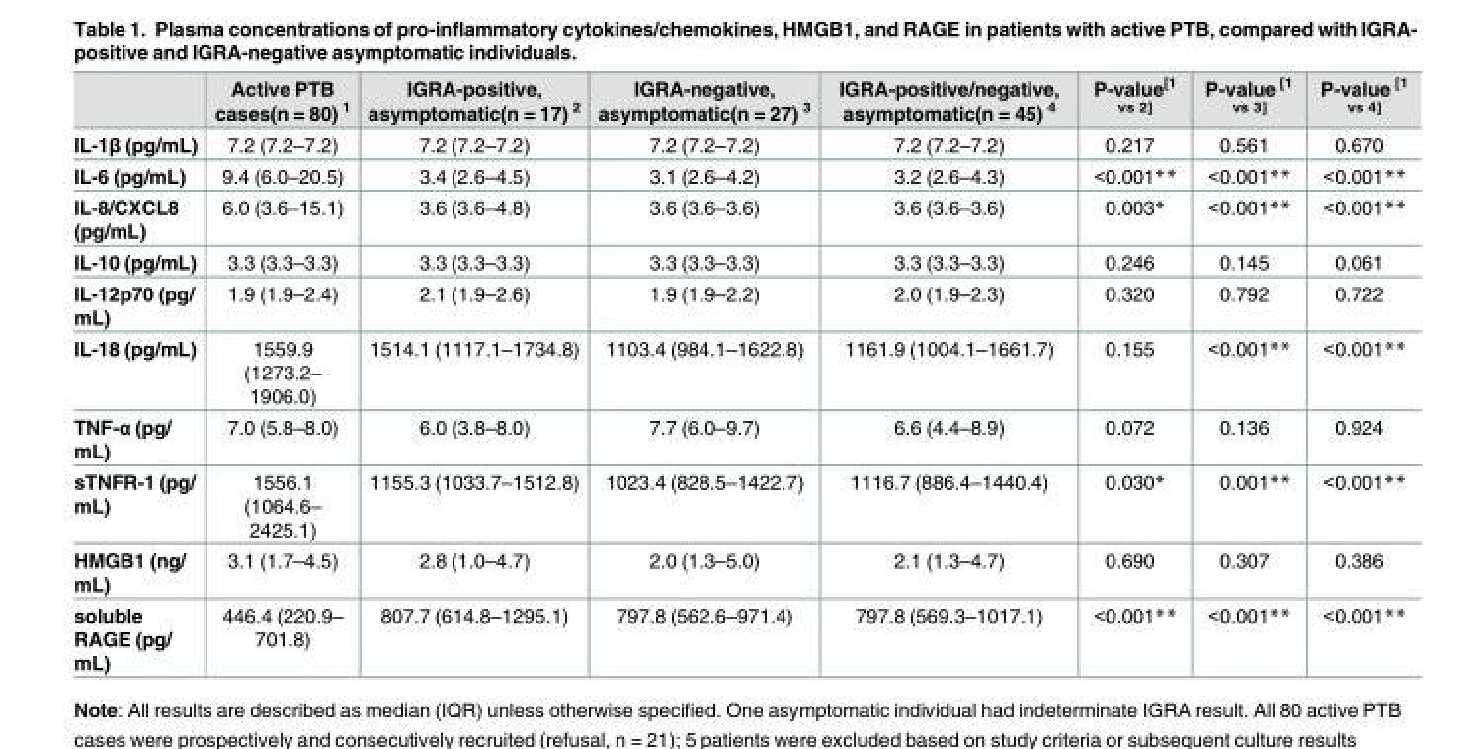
<table><thead><tr><td></td><td>Active PTB cases(n = 80) <sup>1</sup></td><td>IGRA-positive, asymptomatic(n = 17) <sup>2</sup></td><td>IGRA-negative, asymptomatic(n = 27) <sup>3</sup></td><td>IGRA-positive/negative, asymptomatic(n = 45) <sup>4</sup></td><td>P-value<sup>[1 vs 2]</sup></td><td>P-value <sup>[1 vs 3]</sup></td><td>P-value <sup>[1 vs 4]</sup></td></tr></thead><tbody><tr><td>IL-1β (pg/mL)</td><td>7.2 (7.2–7.2)</td><td>7.2 (7.2–7.2)</td><td>7.2 (7.2–7.2)</td><td>7.2 (7.2–7.2)</td><td>0.217</td><td>0.561</td><td>0.670</td></tr><tr><td>IL-6 (pg/mL)</td><td>9.4 (6.0–20.5)</td><td>3.4 (2.6–4.5)</td><td>3.1 (2.6–4.2)</td><td>3.2 (2.6–4.3)</td><td>&lt;0.001**</td><td>&lt;0.001**</td><td>&lt;0.001**</td></tr><tr><td>IL-8/CXCL8 (pg/mL)</td><td>6.0 (3.6–15.1)</td><td>3.6 (3.6–4.8)</td><td>3.6 (3.6–3.6)</td><td>3.6 (3.6–3.6)</td><td>0.003*</td><td>&lt;0.001**</td><td>&lt;0.001**</td></tr><tr><td>IL-10 (pg/mL)</td><td>3.3 (3.3–3.3)</td><td>3.3 (3.3–3.3)</td><td>3.3 (3.3–3.3)</td><td>3.3 (3.3–3.3)</td><td>0.246</td><td>0.145</td><td>0.061</td></tr><tr><td>IL-12p70 (pg/ mL)</td><td>1.9 (1.9–2.4)</td><td>2.1 (1.9–2.6)</td><td>1.9 (1.9–2.2)</td><td>2.0 (1.9–2.3)</td><td>0.320</td><td>0.792</td><td>0.722</td></tr><tr><td>IL-18 (pg/mL)</td><td>1559.9 (1273.2– 1906.0)</td><td>1514.1 (1117.1–1734.8)</td><td>1103.4 (984.1–1622.8)</td><td>1161.9 (1004.1–1661.7)</td><td>0.155</td><td>&lt;0.001**</td><td>&lt;0.001**</td></tr><tr><td>TNF-α (pg/ mL)</td><td>7.0 (5.8–8.0)</td><td>6.0 (3.8–8.0)</td><td>7.7 (6.0–9.7)</td><td>6.6 (4.4–8.9)</td><td>0.072</td><td>0.136</td><td>0.924</td></tr><tr><td>sTNFR-1 (pg/ mL)</td><td>1556.1 (1064.6– 2425.1)</td><td>1155.3 (1033.7–1512.8)</td><td>1023.4 (828.5–1422.7)</td><td>1116.7 (886.4–1440.4)</td><td>0.030*</td><td>0.001**</td><td>&lt;0.001**</td></tr><tr><td>HMGB1 (ng/ mL)</td><td>3.1 (1.7–4.5)</td><td>2.8 (1.0–4.7)</td><td>2.0 (1.3–5.0)</td><td>2.1 (1.3–4.7)</td><td>0.690</td><td>0.307</td><td>0.386</td></tr><tr><td>soluble RAGE (pg/ mL)</td><td>446.4 (220.9– 701.8)</td><td>807.7 (614.8–1295.1)</td><td>797.8 (562.6–971.4)</td><td>797.8 (569.3–1017.1)</td><td>&lt;0.001**</td><td>&lt;0.001**</td><td>&lt;0.001**</td></tr></tbody></table>